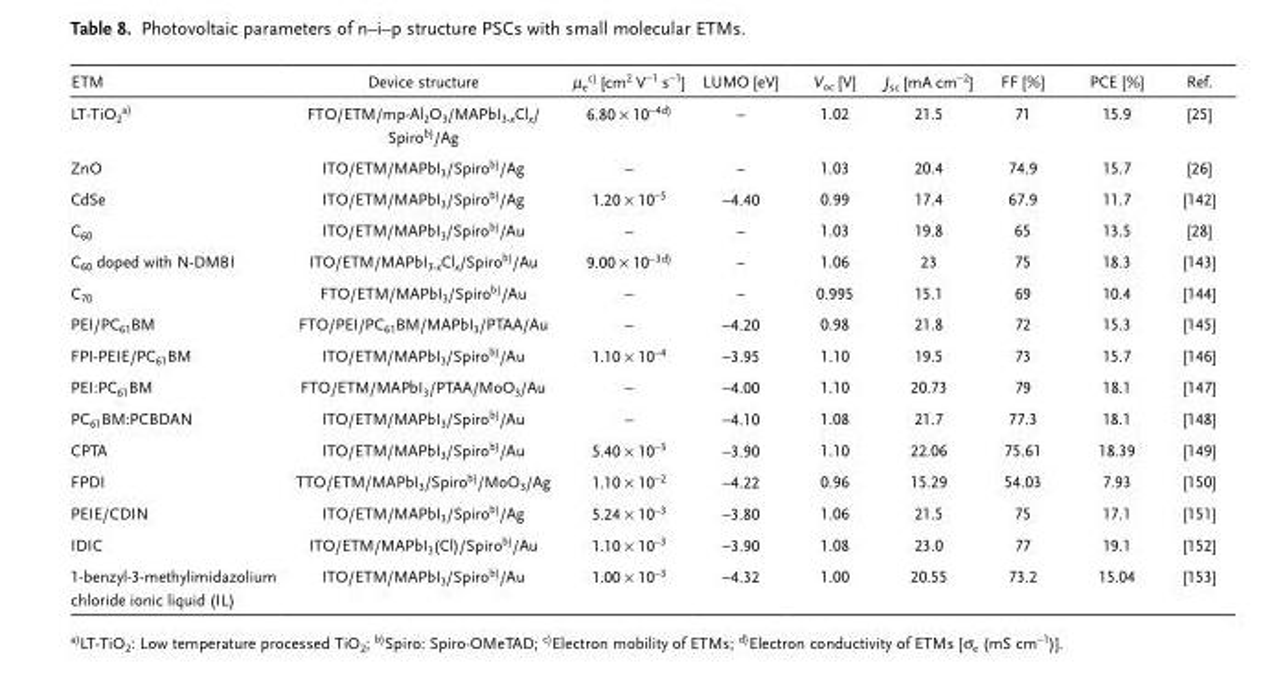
<table><thead><tr><td>ETM</td><td>Device structure</td><td>µ<sub>e</sub>c) [cm<sup>2</sup> V<sup>−1</sup> s<sup>−1</sup>]</td><td>LUMO [eV]</td><td>V<sub>oc</sub> [V]</td><td>J<sub>sc</sub> [mA cm<sup>−2</sup>]</td><td>FF [%]</td><td>PCE [%]</td><td>Ref.</td></tr></thead><tbody><tr><td>LT-TiO<sub>2</sub>a)</td><td>FTO/ETM/mp-Al<sub>2</sub>O<sub>3</sub>/MAPbI<sub>3-x</sub>Cl<sub>x</sub>/ Spirob)/Ag</td><td>6.80 × 10<sup>−4</sup>d)</td><td>–</td><td>1.02</td><td>21.5</td><td>71</td><td>15.9</td><td>[25]</td></tr><tr><td>ZnO</td><td>ITO/ETM/MAPbI<sub>3</sub>/Spirob)/Ag</td><td>–</td><td>–</td><td>1.03</td><td>20.4</td><td>74.9</td><td>15.7</td><td>[26]</td></tr><tr><td>CdSe</td><td>ITO/ETM/MAPbI<sub>3</sub>/Spirob)/Ag</td><td>1.20 × 10<sup>−5</sup></td><td>−4.40</td><td>0.99</td><td>17.4</td><td>67.9</td><td>11.7</td><td>[142]</td></tr><tr><td>C<sub>60</sub></td><td>ITO/ETM/MAPbI<sub>3</sub>/Spirob)/Au</td><td>–</td><td>–</td><td>1.03</td><td>19.8</td><td>65</td><td>13.5</td><td>[28]</td></tr><tr><td>C<sub>60</sub> doped with N-DMBI</td><td>ITO/ETM/MAPbI<sub>3-x</sub>Cl<sub>x</sub>/Spirob)/Au</td><td>9.00 × 10<sup>−3</sup>d)</td><td>–</td><td>1.06</td><td>23</td><td>75</td><td>18.3</td><td>[143]</td></tr><tr><td>C<sub>70</sub></td><td>FTO/ETM/MAPbI<sub>3</sub>/Spirob)/Au</td><td>–</td><td>–</td><td>0.995</td><td>15.1</td><td>69</td><td>10.4</td><td>[144]</td></tr><tr><td>PEI/PC<sub>61</sub>BM</td><td>FTO/PEI/PC<sub>61</sub>BM/MAPbI<sub>3</sub>/PTAA/Au</td><td>–</td><td>−4.20</td><td>0.98</td><td>21.8</td><td>72</td><td>15.3</td><td>[145]</td></tr><tr><td>FPI-PEIE/PC<sub>61</sub>BM</td><td>ITO/ETM/MAPbI<sub>3</sub>/Spirob)/Au</td><td>1.10 × 10<sup>−4</sup></td><td>−3.95</td><td>1.10</td><td>19.5</td><td>73</td><td>15.7</td><td>[146]</td></tr><tr><td>PEI:PC<sub>61</sub>BM</td><td>FTO/ETM/MAPbI<sub>3</sub>/PTAA/MoO<sub>3</sub>/Au</td><td>–</td><td>−4.00</td><td>1.10</td><td>20.73</td><td>79</td><td>18.1</td><td>[147]</td></tr><tr><td>PC<sub>61</sub>BM:PCBDAN</td><td>ITO/ETM/MAPbI<sub>3</sub>/Spirob)/Au</td><td>–</td><td>−4.10</td><td>1.08</td><td>21.7</td><td>77.3</td><td>18.1</td><td>[148]</td></tr><tr><td>CPTA</td><td>ITO/ETM/MAPbI<sub>3</sub>/Spirob)/Au</td><td>5.40 × 10<sup>−3</sup></td><td>−3.90</td><td>1.10</td><td>22.06</td><td>75.61</td><td>18.39</td><td>[149]</td></tr><tr><td>FPDI</td><td>TTO/ETM/MAPbI<sub>3</sub>/Spirob)/MoO<sub>3</sub>/Ag</td><td>1.10 × 10<sup>−2</sup></td><td>−4.22</td><td>0.96</td><td>15.29</td><td>54.03</td><td>7.93</td><td>[150]</td></tr><tr><td>PEIE/CDIN</td><td>ITO/ETM/MAPbI<sub>3</sub>/Spirob)/Ag</td><td>5.24 × 10<sup>−3</sup></td><td>−3.80</td><td>1.06</td><td>21.5</td><td>75</td><td>17.1</td><td>[151]</td></tr><tr><td>IDIC</td><td>ITO/ETM/MAPbI<sub>3</sub>(Cl)/Spirob)/Au</td><td>1.10 × 10<sup>−3</sup></td><td>−3.90</td><td>1.08</td><td>23.0</td><td>77</td><td>19.1</td><td>[152]</td></tr><tr><td>1-benzyl-3-methylimidazolium chloride ionic liquid (IL)</td><td>ITO/ETM/MAPbI<sub>3</sub>/Spirob)/Au</td><td>1.00 × 10<sup>−3</sup></td><td>−4.32</td><td>1.00</td><td>20.55</td><td>73.2</td><td>15.04</td><td>[153]</td></tr></tbody></table>